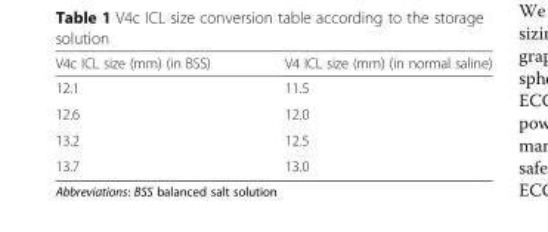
<table><thead><tr><td>V4c ICL size (mm) (in BSS)</td><td>V4 ICL size (mm) (in normal saline)</td></tr></thead><tbody><tr><td>12.1</td><td>11.5</td></tr><tr><td>12.6</td><td>12.0</td></tr><tr><td>13.2</td><td>12.5</td></tr><tr><td>13.7</td><td>13.0</td></tr></tbody></table>